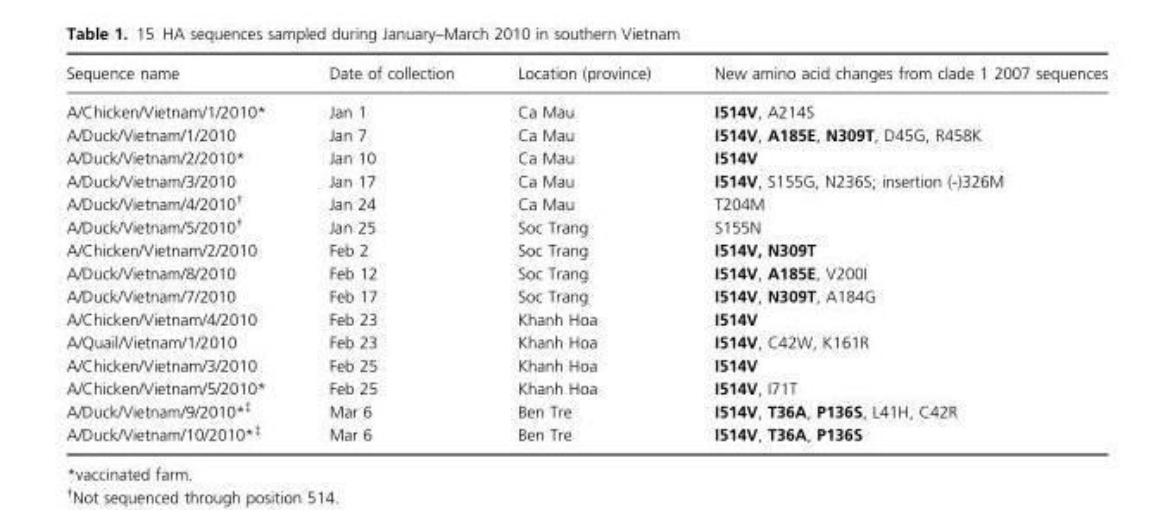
<table><thead><tr><td>Sequence name</td><td>Date of collection</td><td>Location (province)</td><td>New amino acid changes from clade 1 2007 sequences</td></tr></thead><tbody><tr><td>A/Chicken/Vietnam/1/2010*</td><td>Jan 1</td><td>Ca Mau</td><td>I514V, A214S</td></tr><tr><td>A/Duck/Vietnam/1/2010</td><td>Jan 7</td><td>Ca Mau</td><td>I514V, A185E, N309T, D45G, R458K</td></tr><tr><td>A/Duck/Vietnam/2/2010*</td><td>Jan 10</td><td>Ca Mau</td><td>I514V</td></tr><tr><td>A/Duck/Vietnam/3/2010</td><td>Jan 17</td><td>Ca Mau</td><td>I514V, S155G, N236S; insertion (-)326M</td></tr><tr><td>A/Duck/Vietnam/4/2010†</td><td>Jan 24</td><td>Ca Mau</td><td>T204M</td></tr><tr><td>A/Duck/Vietnam/5/2010†</td><td>Jan 25</td><td>Soc Trang</td><td>S155N</td></tr><tr><td>A/Chicken/Vietnam/2/2010</td><td>Feb 2</td><td>Soc Trang</td><td>I514V, N309T</td></tr><tr><td>A/Duck/Vietnam/8/2010</td><td>Feb 12</td><td>Soc Trang</td><td>I514V, A185E, V200I</td></tr><tr><td>A/Duck/Vietnam/7/2010</td><td>Feb 17</td><td>Soc Trang</td><td>I514V, N309T, A184G</td></tr><tr><td>A/Chicken/Vietnam/4/2010</td><td>Feb 23</td><td>Khanh Hoa</td><td>I514V</td></tr><tr><td>A/Quail/Vietnam/1/2010</td><td>Feb 23</td><td>Khanh Hoa</td><td>I514V, C42W, K161R</td></tr><tr><td>A/Chicken/Vietnam/3/2010</td><td>Feb 25</td><td>Khanh Hoa</td><td>I514V</td></tr><tr><td>A/Chicken/Vietnam/5/2010*</td><td>Feb 25</td><td>Khanh Hoa</td><td>I514V, I71T</td></tr><tr><td>A/Duck/Vietnam/9/2010*‡</td><td>Mar 6</td><td>Ben Tre</td><td>I514V, T36A, P136S, L41H, C42R</td></tr><tr><td>A/Duck/Vietnam/10/2010*‡</td><td>Mar 6</td><td>Ben Tre</td><td>I514V, T36A, P136S</td></tr></tbody></table>